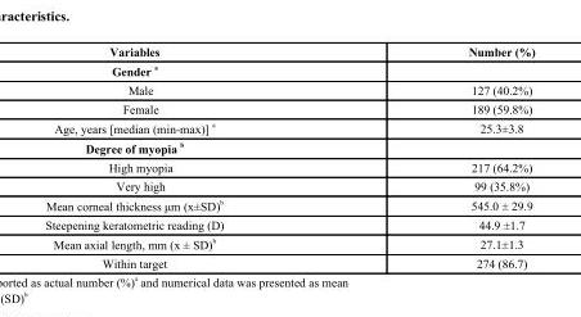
<table><thead><tr><td>Variables</td><td>Number (%)</td></tr></thead><tbody><tr><td colspan="2">Gender <sup>a</sup></td></tr><tr><td>Male</td><td>127 (40.2%)</td></tr><tr><td>Female</td><td>189 (59.8%)</td></tr><tr><td>Age, years [median (min-max)] <sup>a</sup></td><td>25.3±3.8</td></tr><tr><td colspan="2">Degree of myopia <sup>b</sup></td></tr><tr><td>High myopia</td><td>217 (64.2%)</td></tr><tr><td>Very high</td><td>99 (35.8%)</td></tr><tr><td>Mean corneal thickness μm (x±SD) <sup>b</sup></td><td>545.0 ± 29.9</td></tr><tr><td>Steepening keratometric reading (D)</td><td>44.9 ±1.7</td></tr><tr><td>Mean axial length, mm (x ± SD) <sup>b</sup></td><td>27.1±1.3</td></tr><tr><td>Within target</td><td>274 (86.7)</td></tr></tbody></table>